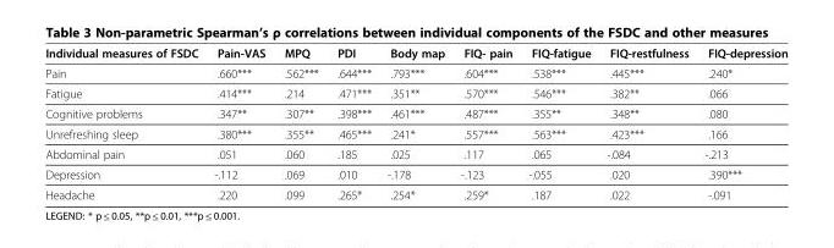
<table><thead><tr><td>Individual measures of FSDC</td><td>Pain-VAS</td><td>MPQ</td><td>PDI</td><td>Body map</td><td>FIQ- pain</td><td>FIQ-fatigue</td><td>FIQ-restfulness</td><td>FIQ-depression</td></tr></thead><tbody><tr><td>Pain</td><td>.660***</td><td>.562***</td><td>.644***</td><td>.793***</td><td>.604***</td><td>.538***</td><td>.445***</td><td>.240*</td></tr><tr><td>Fatigue</td><td>.414***</td><td>.214</td><td>.471***</td><td>.351**</td><td>.570***</td><td>.546***</td><td>.382**</td><td>.066</td></tr><tr><td>Cognitive problems</td><td>.347**</td><td>.307**</td><td>.398***</td><td>.461***</td><td>.487***</td><td>.355**</td><td>.348**</td><td>.080</td></tr><tr><td>Unrefreshing sleep</td><td>.380***</td><td>.355**</td><td>.465***</td><td>.241*</td><td>.557***</td><td>.563***</td><td>.423***</td><td>.166</td></tr><tr><td>Abdominal pain</td><td>.051</td><td>.060</td><td>.185</td><td>.025</td><td>.117</td><td>.065</td><td>-.084</td><td>-.213</td></tr><tr><td>Depression</td><td>-.112</td><td>.069</td><td>.010</td><td>-.178</td><td>-.123</td><td>-.055</td><td>.020</td><td>.390***</td></tr><tr><td>Headache</td><td>.220</td><td>.099</td><td>.265*</td><td>.254*</td><td>.259*</td><td>.187</td><td>.022</td><td>-.091</td></tr></tbody></table>